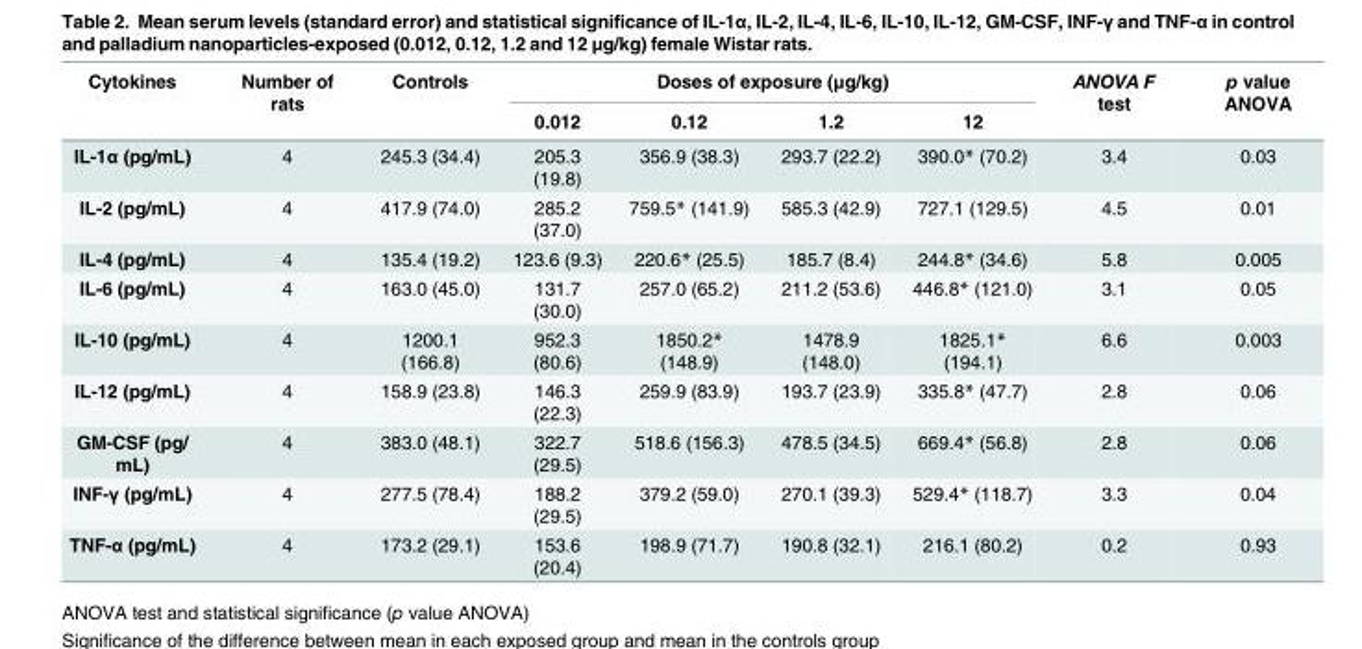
<table><thead><tr><td rowspan="2">Cytokines</td><td rowspan="2">Number of rats</td><td rowspan="2">Controls</td><td colspan="4">Doses of exposure (μg/kg)</td><td rowspan="2">ANOVA F test</td><td rowspan="2">p value ANOVA</td></tr><tr><td>0.012</td><td>0.12</td><td>1.2</td><td>12</td></tr></thead><tbody><tr><td>IL-1α (pg/mL)</td><td>4</td><td>245.3 (34.4)</td><td>205.3 (19.8)</td><td>356.9 (38.3)</td><td>293.7 (22.2)</td><td>390.0* (70.2)</td><td>3.4</td><td>0.03</td></tr><tr><td>IL-2 (pg/mL)</td><td>4</td><td>417.9 (74.0)</td><td>285.2 (37.0)</td><td>759.5* (141.9)</td><td>585.3 (42.9)</td><td>727.1 (129.5)</td><td>4.5</td><td>0.01</td></tr><tr><td>IL-4 (pg/mL)</td><td>4</td><td>135.4 (19.2)</td><td>123.6 (9.3)</td><td>220.6* (25.5)</td><td>185.7 (8.4)</td><td>244.8* (34.6)</td><td>5.8</td><td>0.005</td></tr><tr><td>IL-6 (pg/mL)</td><td>4</td><td>163.0 (45.0)</td><td>131.7 (30.0)</td><td>257.0 (65.2)</td><td>211.2 (53.6)</td><td>446.8* (121.0)</td><td>3.1</td><td>0.05</td></tr><tr><td>IL-10 (pg/mL)</td><td>4</td><td>1200.1 (166.8)</td><td>952.3 (80.6)</td><td>1850.2* (148.9)</td><td>1478.9 (148.0)</td><td>1825.1* (194.1)</td><td>6.6</td><td>0.003</td></tr><tr><td>IL-12 (pg/mL)</td><td>4</td><td>158.9 (23.8)</td><td>146.3 (22.3)</td><td>259.9 (83.9)</td><td>193.7 (23.9)</td><td>335.8* (47.7)</td><td>2.8</td><td>0.06</td></tr><tr><td>GM-CSF (pg/ mL)</td><td>4</td><td>383.0 (48.1)</td><td>322.7 (29.5)</td><td>518.6 (156.3)</td><td>478.5 (34.5)</td><td>669.4* (56.8)</td><td>2.8</td><td>0.06</td></tr><tr><td>INF-γ (pg/mL)</td><td>4</td><td>277.5 (78.4)</td><td>188.2 (29.5)</td><td>379.2 (59.0)</td><td>270.1 (39.3)</td><td>529.4* (118.7)</td><td>3.3</td><td>0.04</td></tr><tr><td>TNF-α (pg/mL)</td><td>4</td><td>173.2 (29.1)</td><td>153.6 (20.4)</td><td>198.9 (71.7)</td><td>190.8 (32.1)</td><td>216.1 (80.2)</td><td>0.2</td><td>0.93</td></tr></tbody></table>